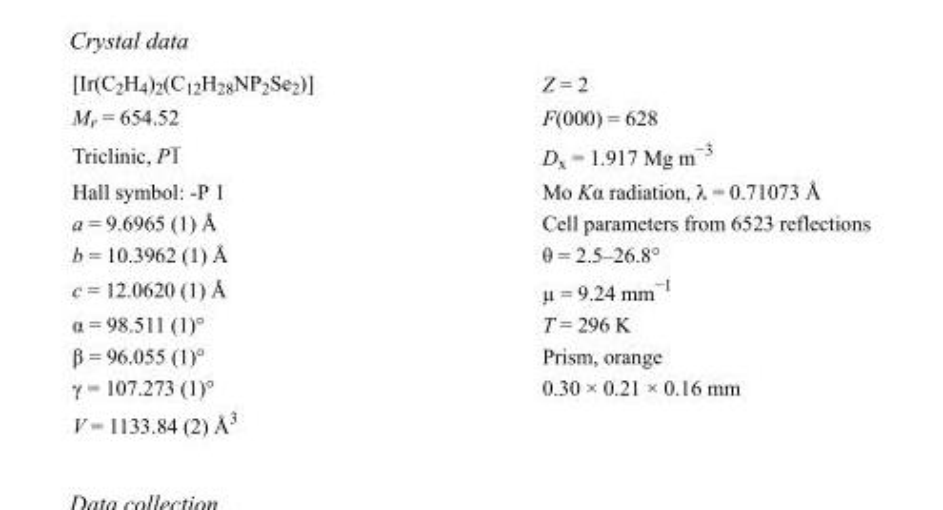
<table><tbody><tr><td>[Ir(C<sub>2</sub>H<sub>4</sub>)<sub>2</sub>(C<sub>12</sub>H<sub>28</sub>NP<sub>2</sub>Se<sub>2</sub>)]</td><td>Z = 2</td></tr><tr><td>M<sub>r</sub> = 654.52</td><td>F(000) = 628</td></tr><tr><td>Triclinic, P1</td><td>D<sub>x</sub> = 1.917 Mg m<sup>−3</sup></td></tr><tr><td>Hall symbol: -P 1</td><td>Mo Kα radiation, λ = 0.71073 Å</td></tr><tr><td>a = 9.6965 (1) Å</td><td>Cell parameters from 6523 reflections</td></tr><tr><td>b = 10.3962 (1) Å</td><td>θ = 2.5–26.8°</td></tr><tr><td>c = 12.0620 (1) Å</td><td>µ = 9.24 mm<sup>−1</sup></td></tr><tr><td>α = 98.511 (1)°</td><td>T = 296 K</td></tr><tr><td>β = 96.055 (1)°</td><td>Prism, orange</td></tr><tr><td>γ = 107.273 (1)°</td><td>0.30 × 0.21 × 0.16 mm</td></tr><tr><td>V = 1133.84 (2) Å<sup>3</sup></td><td></td></tr></tbody></table>